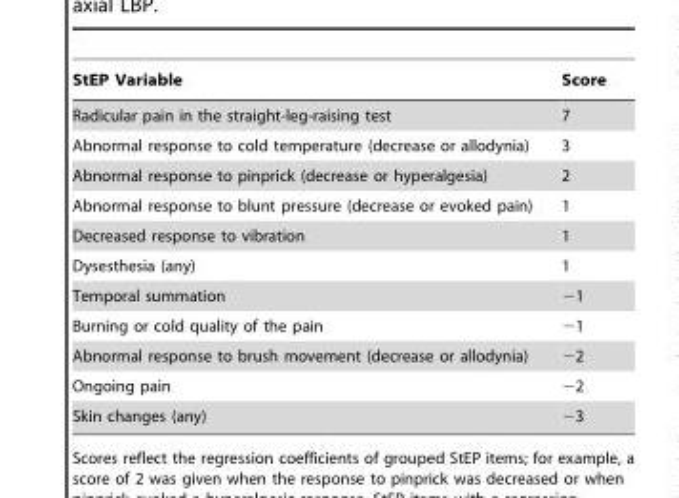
<table><thead><tr><td>StEP Variable</td><td>Score</td></tr></thead><tbody><tr><td>Radicular pain in the straight-leg-raising test</td><td>7</td></tr><tr><td>Abnormal response to cold temperature (decrease or allodynia)</td><td>3</td></tr><tr><td>Abnormal response to pinprick (decrease or hyperalgesia)</td><td>2</td></tr><tr><td>Abnormal response to blunt pressure (decrease or evoked pain)</td><td>1</td></tr><tr><td>Decreased response to vibration</td><td>1</td></tr><tr><td>Dysesthesia (any)</td><td>1</td></tr><tr><td>Temporal summation</td><td>−1</td></tr><tr><td>Burning or cold quality of the pain</td><td>−1</td></tr><tr><td>Abnormal response to brush movement (decrease or allodynia)</td><td>−2</td></tr><tr><td>Ongoing pain</td><td>−2</td></tr><tr><td>Skin changes (any)</td><td>−3</td></tr></tbody></table>